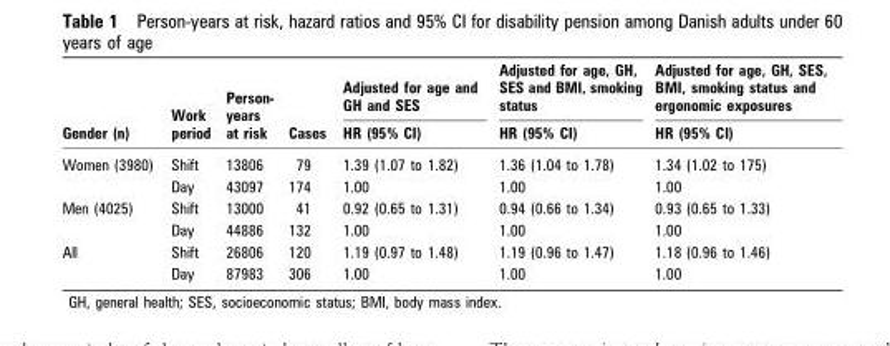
<table><thead><tr><td rowspan="2">Gender (n)</td><td rowspan="2">Work period</td><td rowspan="2">Person- years at risk</td><td rowspan="2">Cases</td><td rowspan="2">Adjusted for age and GH and SES HR (95% CI)</td><td rowspan="2">Adjusted for age, GH, SES and BMI, smoking status HR (95% CI)</td><td rowspan="2">Adjusted for age, GH, SES, BMI, smoking status and ergonomic exposures HR (95% CI)</td></tr><tr></tr></thead><tbody><tr><td rowspan="2">Women (3980)</td><td>Shift</td><td>13806</td><td>79</td><td>1.39 (1.07 to 1.82)</td><td>1.36 (1.04 to 1.78)</td><td>1.34 (1.02 to 175)</td></tr><tr><td>Day</td><td>43097</td><td>174</td><td>1.00</td><td>1.00</td><td>1.00</td></tr><tr><td rowspan="2">Men (4025)</td><td>Shift</td><td>13000</td><td>41</td><td>0.92 (0.65 to 1.31)</td><td>0.94 (0.66 to 1.34)</td><td>0.93 (0.65 to 1.33)</td></tr><tr><td>Day</td><td>44886</td><td>132</td><td>1.00</td><td>1.00</td><td>1.00</td></tr><tr><td rowspan="2">All</td><td>Shift</td><td>26806</td><td>120</td><td>1.19 (0.97 to 1.48)</td><td>1.19 (0.96 to 1.47)</td><td>1.18 (0.96 to 1.46)</td></tr><tr><td>Day</td><td>87983</td><td>306</td><td>1.00</td><td>1.00</td><td>1.00</td></tr></tbody></table>